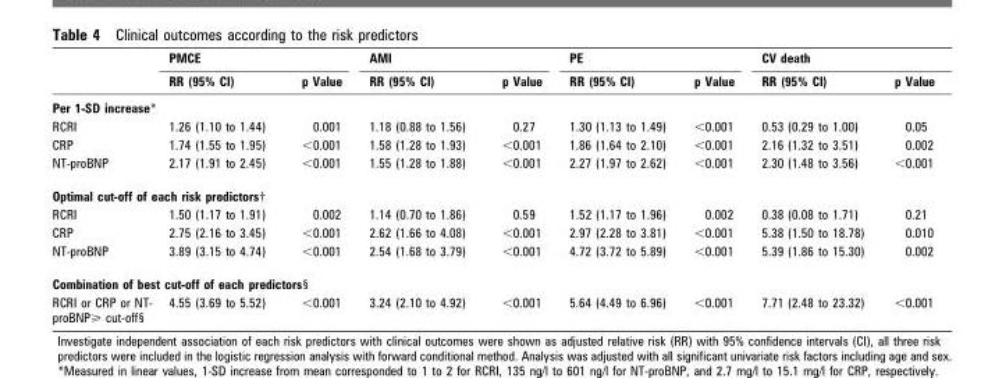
<table><thead><tr><td rowspan="2"></td><td colspan="2">PMCE</td><td colspan="2">AMI</td><td colspan="2">PE</td><td colspan="2">CV death</td></tr><tr><td>RR (95% CI)</td><td>p Value</td><td>RR (95% CI)</td><td>p Value</td><td>RR (95% CI)</td><td>p Value</td><td>RR (95% CI)</td><td>p Value</td></tr></thead><tbody><tr><td colspan="9">Per 1-SD increase*</td></tr><tr><td>RCRI</td><td>1.26 (1.10 to 1.44)</td><td>0.001</td><td>1.18 (0.88 to 1.56)</td><td>0.27</td><td>1.30 (1.13 to 1.49)</td><td>&lt;0.001</td><td>0.53 (0.29 to 1.00)</td><td>0.05</td></tr><tr><td>CRP</td><td>1.74 (1.55 to 1.95)</td><td>&lt;0.001</td><td>1.58 (1.28 to 1.93)</td><td>&lt;0.001</td><td>1.86 (1.64 to 2.10)</td><td>&lt;0.001</td><td>2.16 (1.32 to 3.51)</td><td>0.002</td></tr><tr><td>NT-proBNP</td><td>2.17 (1.91 to 2.45)</td><td>&lt;0.001</td><td>1.55 (1.28 to 1.88)</td><td>&lt;0.001</td><td>2.27 (1.97 to 2.62)</td><td>&lt;0.001</td><td>2.30 (1.48 to 3.56)</td><td>&lt;0.001</td></tr><tr><td colspan="9">Optimal cut-off of each risk predictors†</td></tr><tr><td>RCRI</td><td>1.50 (1.17 to 1.91)</td><td>0.002</td><td>1.14 (0.70 to 1.86)</td><td>0.59</td><td>1.52 (1.17 to 1.96)</td><td>0.002</td><td>0.38 (0.08 to 1.71)</td><td>0.21</td></tr><tr><td>CRP</td><td>2.75 (2.16 to 3.45)</td><td>&lt;0.001</td><td>2.62 (1.66 to 4.08)</td><td>&lt;0.001</td><td>2.97 (2.28 to 3.81)</td><td>&lt;0.001</td><td>5.38 (1.50 to 18.78)</td><td>0.010</td></tr><tr><td>NT-proBNP</td><td>3.89 (3.15 to 4.74)</td><td>&lt;0.001</td><td>2.54 (1.68 to 3.79)</td><td>&lt;0.001</td><td>4.72 (3.72 to 5.89)</td><td>&lt;0.001</td><td>5.39 (1.86 to 15.30)</td><td>0.002</td></tr><tr><td colspan="9">Combination of best cut-off of each predictors§</td></tr><tr><td>RCRI or CRP or NT- proBNP&gt; cut-off1</td><td>4.55 (3.69 to 5.52)</td><td>&lt;0.001</td><td>3.24 (2.10 to 4.92)</td><td>&lt;0.001</td><td>5.64 (4.49 to 6.96)</td><td>&lt;0.001</td><td>7.71 (2.48 to 23.32)</td><td>&lt;0.001</td></tr></tbody></table>